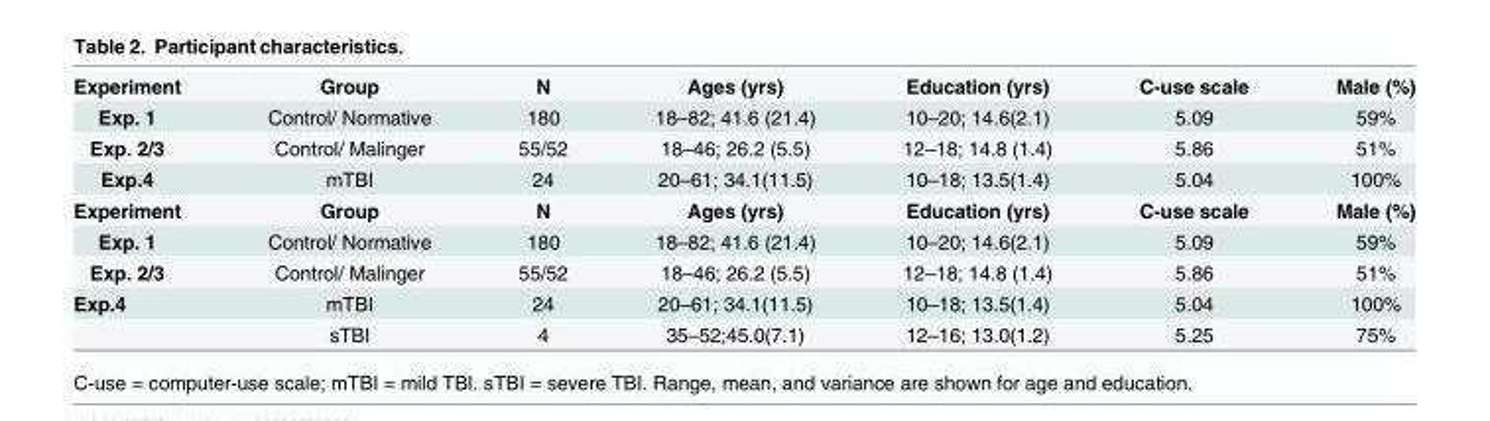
<table><tbody><tr><td>Experiment</td><td>Group</td><td>N</td><td>Ages (yrs)</td><td>Education (yrs)</td><td>C-use scale</td><td>Male (%)</td></tr><tr><td>Exp. 1</td><td>Control/ Normative</td><td>180</td><td>18–82; 41.6 (21.4)</td><td>10–20; 14.6(2.1)</td><td>5.09</td><td>59%</td></tr><tr><td>Exp. 2/3</td><td>Control/ Malinger</td><td>55/52</td><td>18–46; 26.2 (5.5)</td><td>12–18; 14.8 (1.4)</td><td>5.86</td><td>51%</td></tr><tr><td>Exp.4</td><td>mTBI</td><td>24</td><td>20–61; 34.1(11.5)</td><td>10–18; 13.5(1.4)</td><td>5.04</td><td>100%</td></tr><tr><td>Experiment</td><td>Group</td><td>N</td><td>Ages (yrs)</td><td>Education (yrs)</td><td>C-use scale</td><td>Male (%)</td></tr><tr><td>Exp. 1</td><td>Control/ Normative</td><td>180</td><td>18–82; 41.6 (21.4)</td><td>10–20; 14.6(2.1)</td><td>5.09</td><td>59%</td></tr><tr><td>Exp. 2/3</td><td>Control/ Malinger</td><td>55/52</td><td>18–46; 26.2 (5.5)</td><td>12–18; 14.8 (1.4)</td><td>5.86</td><td>51%</td></tr><tr><td rowspan="2">Exp.4</td><td>mTBI</td><td>24</td><td>20–61; 34.1(11.5)</td><td>10–18; 13.5(1.4)</td><td>5.04</td><td>100%</td></tr><tr><td>sTBI</td><td>4</td><td>35–52;45.0(7.1)</td><td>12–16; 13.0(1.2)</td><td>5.25</td><td>75%</td></tr></tbody></table>